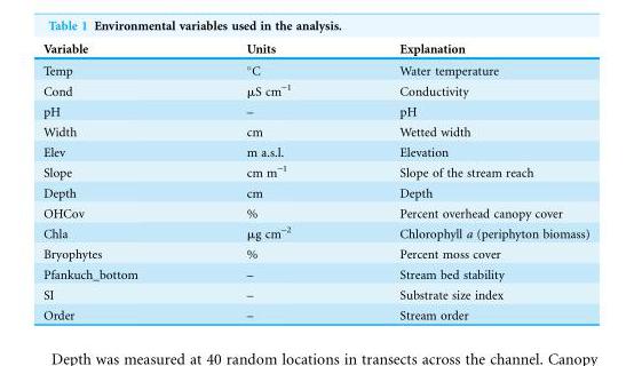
<table><thead><tr><td>Variable</td><td>Units</td><td>Explanation</td></tr></thead><tbody><tr><td>Temp</td><td>°C</td><td>Water temperature</td></tr><tr><td>Cond</td><td>μS cm<sup>-1</sup></td><td>Conductivity</td></tr><tr><td>pH</td><td>–</td><td>pH</td></tr><tr><td>Width</td><td>cm</td><td>Wetted width</td></tr><tr><td>Elev</td><td>m a.s.l.</td><td>Elevation</td></tr><tr><td>Slope</td><td>cm m<sup>-1</sup></td><td>Slope of the stream reach</td></tr><tr><td>Depth</td><td>cm</td><td>Depth</td></tr><tr><td>OHCov</td><td>%</td><td>Percent overhead canopy cover</td></tr><tr><td>Chla</td><td>μg cm<sup>-2</sup></td><td>Chlorophyll a (periphyton biomass)</td></tr><tr><td>Bryophytes</td><td>%</td><td>Percent moss cover</td></tr><tr><td>Pfankuch_bottom</td><td>–</td><td>Stream bed stability</td></tr><tr><td>SI</td><td>–</td><td>Substrate size index</td></tr><tr><td>Order</td><td>–</td><td>Stream order</td></tr></tbody></table>